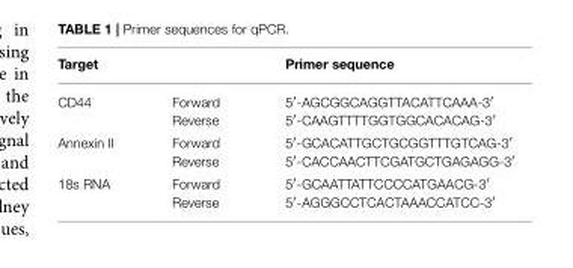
<table><thead><tr><td>Target</td><td></td><td>Primer sequence</td></tr></thead><tbody><tr><td>CD44</td><td>Forward Reverse</td><td>5′-AGCGGCAGGTTACATTCAAA-3′ 5′-CAAGTTTTGGTGGCACACAG-3′</td></tr><tr><td>Annexin II</td><td>Forward Reverse</td><td>5′-GCACATTGCTGCGGTTTGTCAG-3′ 5′-CACCAACTTCGATGCTGAGAGG-3′</td></tr><tr><td>18s RNA</td><td>Forward Reverse</td><td>5′-GCAATTATTCCCCATGAACG-3′ 5′-AGGGCCTCACTAAACCATCC-3′</td></tr></tbody></table>